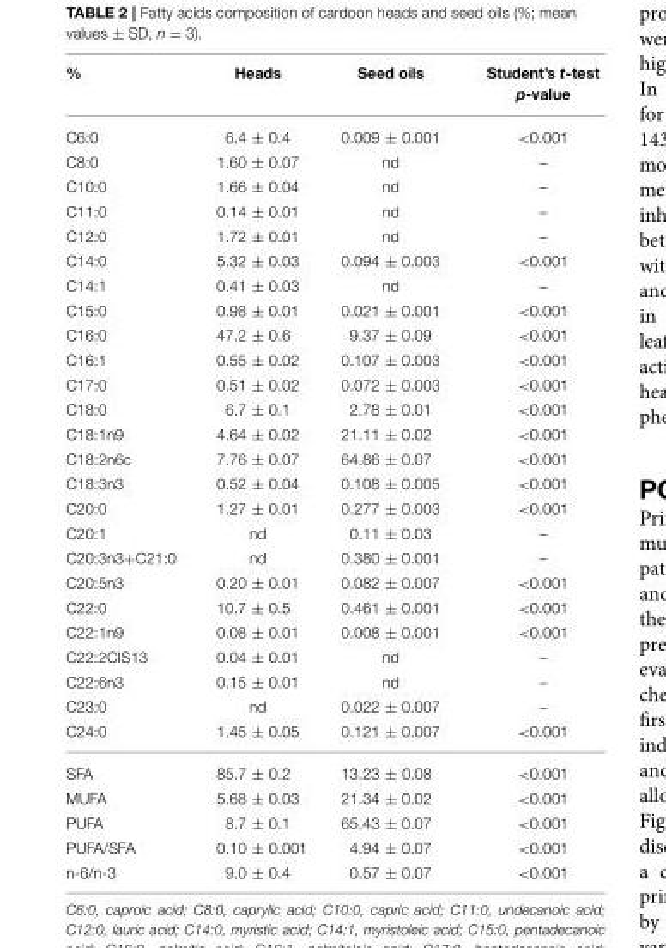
<table><thead><tr><td>%</td><td>Heads</td><td>Seed oils</td><td>Student’s t-test p-value</td></tr></thead><tbody><tr><td>C6:0</td><td>6.4 ± 0.4</td><td>0.009 ± 0.001</td><td>&lt;0.001</td></tr><tr><td>C8:0</td><td>1.60 ± 0.07</td><td>nd</td><td>–</td></tr><tr><td>C10:0</td><td>1.66 ± 0.04</td><td>nd</td><td>–</td></tr><tr><td>C11:0</td><td>0.14 ± 0.01</td><td>nd</td><td>–</td></tr><tr><td>C12:0</td><td>1.72 ± 0.01</td><td>nd</td><td>–</td></tr><tr><td>C14:0</td><td>5.32 ± 0.03</td><td>0.094 ± 0.003</td><td>&lt;0.001</td></tr><tr><td>C14:1</td><td>0.41 ± 0.03</td><td>nd</td><td>–</td></tr><tr><td>C15:0</td><td>0.98 ± 0.01</td><td>0.021 ± 0.001</td><td>&lt;0.001</td></tr><tr><td>C16:0</td><td>47.2 ± 0.6</td><td>9.37 ± 0.09</td><td>&lt;0.001</td></tr><tr><td>C16:1</td><td>0.55 ± 0.02</td><td>0.107 ± 0.003</td><td>&lt;0.001</td></tr><tr><td>C17:0</td><td>0.51 ± 0.02</td><td>0.072 ± 0.003</td><td>&lt;0.001</td></tr><tr><td>C18:0</td><td>6.7 ± 0.1</td><td>2.78 ± 0.01</td><td>&lt;0.001</td></tr><tr><td>C18:1n9</td><td>4.64 ± 0.02</td><td>21.11 ± 0.02</td><td>&lt;0.001</td></tr><tr><td>C18:2n6c</td><td>7.76 ± 0.07</td><td>64.86 ± 0.07</td><td>&lt;0.001</td></tr><tr><td>C18:3n3</td><td>0.52 ± 0.04</td><td>0.108 ± 0.005</td><td>&lt;0.001</td></tr><tr><td>C20:0</td><td>1.27 ± 0.01</td><td>0.277 ± 0.003</td><td>&lt;0.001</td></tr><tr><td>C20:1</td><td>nd</td><td>0.11 ± 0.03</td><td>–</td></tr><tr><td>C20:3n3+C21:0</td><td>nd</td><td>0.380 ± 0.001</td><td>–</td></tr><tr><td>C20:5n3</td><td>0.20 ± 0.01</td><td>0.082 ± 0.007</td><td>&lt;0.001</td></tr><tr><td>C22:0</td><td>10.7 ± 0.5</td><td>0.461 ± 0.001</td><td>&lt;0.001</td></tr><tr><td>C22:1n9</td><td>0.08 ± 0.01</td><td>0.008 ± 0.001</td><td>&lt;0.001</td></tr><tr><td>C22:2CIS13</td><td>0.04 ± 0.01</td><td>nd</td><td>–</td></tr><tr><td>C22:6n3</td><td>0.15 ± 0.01</td><td>nd</td><td>–</td></tr><tr><td>C23:0</td><td>nd</td><td>0.022 ± 0.007</td><td>–</td></tr><tr><td>C24:0</td><td>1.45 ± 0.05</td><td>0.121 ± 0.007</td><td>&lt;0.001</td></tr><tr><td>SFA</td><td>85.7 ± 0.2</td><td>13.23 ± 0.08</td><td>&lt;0.001</td></tr><tr><td>MUFA</td><td>5.68 ± 0.03</td><td>21.34 ± 0.02</td><td>&lt;0.001</td></tr><tr><td>PUFA</td><td>8.7 ± 0.1</td><td>65.43 ± 0.07</td><td>&lt;0.001</td></tr><tr><td>PUFA/SFA</td><td>0.10 ± 0.001</td><td>4.94 ± 0.07</td><td>&lt;0.001</td></tr><tr><td>n-6/n-3</td><td>9.0 ± 0.4</td><td>0.57 ± 0.07</td><td>&lt;0.001</td></tr></tbody></table>